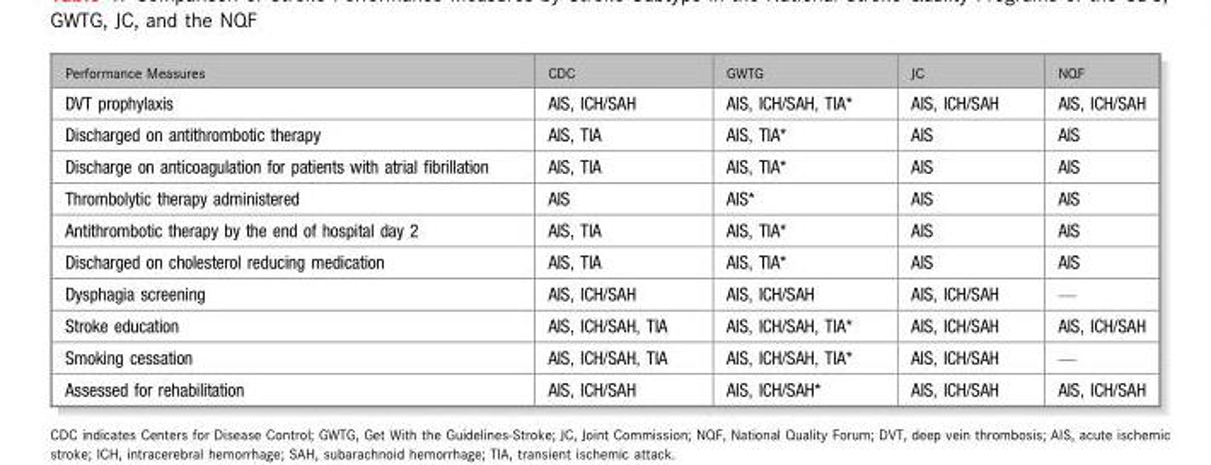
<table><thead><tr><td>Performance Measures</td><td>CDC</td><td>GWTG</td><td>JC</td><td>NQF</td></tr></thead><tbody><tr><td>DVT prophylaxis</td><td>AIS, ICH/SAH</td><td>AIS, ICH/SAH, TIA*</td><td>AIS, ICH/SAH</td><td>AIS, ICH/SAH</td></tr><tr><td>Discharged on antithrombotic therapy</td><td>AIS, TIA</td><td>AIS, TIA*</td><td>AIS</td><td>AIS</td></tr><tr><td>Discharge on anticoagulation for patients with atrial fibrillation</td><td>AIS, TIA</td><td>AIS, TIA*</td><td>AIS</td><td>AIS</td></tr><tr><td>Thrombolytic therapy administered</td><td>AIS</td><td>AIS*</td><td>AIS</td><td>AIS</td></tr><tr><td>Antithrombotic therapy by the end of hospital day 2</td><td>AIS, TIA</td><td>AIS, TIA*</td><td>AIS</td><td>AIS</td></tr><tr><td>Discharged on cholesterol reducing medication</td><td>AIS, TIA</td><td>AIS, TIA*</td><td>AIS</td><td>AIS</td></tr><tr><td>Dysphagia screening</td><td>AIS, ICH/SAH</td><td>AIS, ICH/SAH</td><td>AIS, ICH/SAH</td><td>—</td></tr><tr><td>Stroke education</td><td>AIS, ICH/SAH, TIA</td><td>AIS, ICH/SAH, TIA*</td><td>AIS, ICH/SAH</td><td>AIS, ICH/SAH</td></tr><tr><td>Smoking cessation</td><td>AIS, ICH/SAH, TIA</td><td>AIS, ICH/SAH, TIA*</td><td>AIS, ICH/SAH</td><td>—</td></tr><tr><td>Assessed for rehabilitation</td><td>AIS, ICH/SAH</td><td>AIS, ICH/SAH*</td><td>AIS, ICH/SAH</td><td>AIS, ICH/SAH</td></tr></tbody></table>